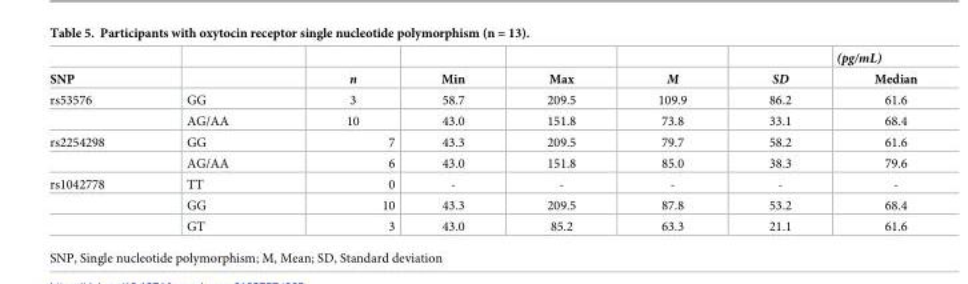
<table><thead><tr><td rowspan="2">SNP</td><td rowspan="2"></td><td rowspan="2">n</td><td rowspan="2">Min</td><td rowspan="2">Max</td><td rowspan="2">M</td><td rowspan="2">SD</td><td rowspan="2">(pg/mL) Median</td></tr><tr></tr></thead><tbody><tr><td rowspan="2">rs53576</td><td>GG</td><td>3</td><td>58.7</td><td>209.5</td><td>109.9</td><td>86.2</td><td>61.6</td></tr><tr><td>AG/AA</td><td>10</td><td>43.0</td><td>151.8</td><td>73.8</td><td>33.1</td><td>68.4</td></tr><tr><td rowspan="2">rs2254298</td><td>GG</td><td>7</td><td>43.3</td><td>209.5</td><td>79.7</td><td>58.2</td><td>61.6</td></tr><tr><td>AG/AA</td><td>6</td><td>43.0</td><td>151.8</td><td>85.0</td><td>38.3</td><td>79.6</td></tr><tr><td rowspan="3">rs1042778</td><td>TT</td><td>0</td><td>-</td><td>-</td><td>-</td><td>-</td><td>-</td></tr><tr><td>GG</td><td>10</td><td>43.3</td><td>209.5</td><td>87.8</td><td>53.2</td><td>68.4</td></tr><tr><td>GT</td><td>3</td><td>43.0</td><td>85.2</td><td>63.3</td><td>21.1</td><td>61.6</td></tr></tbody></table>